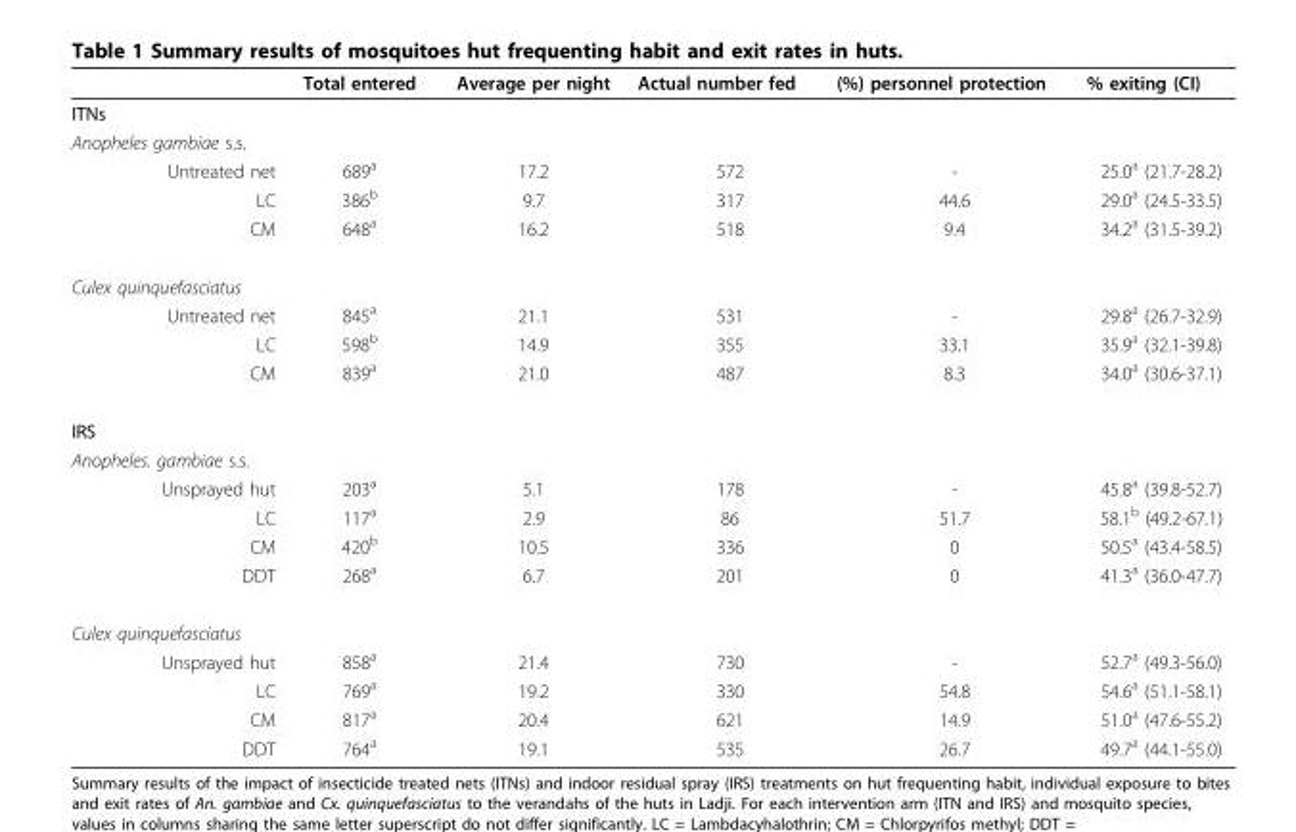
<table><thead><tr><td></td><td>Total entered</td><td>Average per night</td><td>Actual number fed</td><td>(%) personnel protection</td><td>% exiting (CI)</td></tr></thead><tbody><tr><td colspan="6">ITNs</td></tr><tr><td colspan="6">Anopheles gambiae s.s.</td></tr><tr><td>Untreated net</td><td>689<sup>a</sup></td><td>17.2</td><td>572</td><td>-</td><td>25.0<sup>a</sup> (21.7-28.2)</td></tr><tr><td>LC</td><td>386<sup>b</sup></td><td>9.7</td><td>317</td><td>44.6</td><td>29.0<sup>a</sup> (24.5-33.5)</td></tr><tr><td>CM</td><td>648<sup>a</sup></td><td>16.2</td><td>518</td><td>9.4</td><td>34.2<sup>a</sup> (31.5-39.2)</td></tr><tr><td colspan="6">Culex quinquefasciatus</td></tr><tr><td>Untreated net</td><td>845<sup>a</sup></td><td>21.1</td><td>531</td><td>-</td><td>29.8<sup>a</sup> (26.7-32.9)</td></tr><tr><td>LC</td><td>598<sup>b</sup></td><td>14.9</td><td>355</td><td>33.1</td><td>35.9<sup>a</sup> (32.1-39.8)</td></tr><tr><td>CM</td><td>839<sup>a</sup></td><td>21.0</td><td>487</td><td>8.3</td><td>34.0<sup>a</sup> (30.6-37.1)</td></tr><tr><td colspan="6">IRS</td></tr><tr><td colspan="6">Anopheles. gambiae s.s.</td></tr><tr><td>Unsprayed hut</td><td>203<sup>a</sup></td><td>5.1</td><td>178</td><td>-</td><td>45.8<sup>a</sup> (39.8-52.7)</td></tr><tr><td>LC</td><td>117<sup>a</sup></td><td>2.9</td><td>86</td><td>51.7</td><td>58.1<sup>b</sup> (49.2-67.1)</td></tr><tr><td>CM</td><td>420<sup>b</sup></td><td>10.5</td><td>336</td><td>0</td><td>50.5<sup>a</sup> (43.4-58.5)</td></tr><tr><td>DDT</td><td>268<sup>a</sup></td><td>6.7</td><td>201</td><td>0</td><td>41.3<sup>a</sup> (36.0-47.7)</td></tr><tr><td colspan="6">Culex quinquefasciatus</td></tr><tr><td>Unsprayed hut</td><td>858<sup>a</sup></td><td>21.4</td><td>730</td><td>-</td><td>52.7<sup>a</sup> (49.3-56.0)</td></tr><tr><td>LC</td><td>769<sup>a</sup></td><td>19.2</td><td>330</td><td>54.8</td><td>54.6<sup>a</sup> (51.1-58.1)</td></tr><tr><td>CM</td><td>817<sup>a</sup></td><td>20.4</td><td>621</td><td>14.9</td><td>51.0<sup>a</sup> (47.6-55.2)</td></tr><tr><td>DDT</td><td>764<sup>a</sup></td><td>19.1</td><td>535</td><td>26.7</td><td>49.7<sup>a</sup> (44.1-55.0)</td></tr></tbody></table>